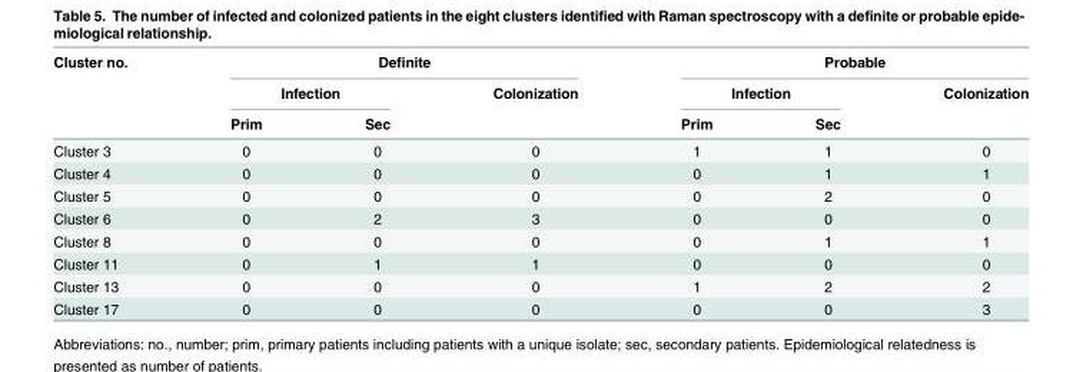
<table><thead><tr><td rowspan="3">Cluster no.</td><td colspan="3">Definite</td><td colspan="3">Probable</td></tr><tr><td colspan="2">Infection</td><td rowspan="2">Colonization</td><td colspan="2">Infection</td><td rowspan="2">Colonization</td></tr><tr><td>Prim</td><td>Sec</td><td>Prim</td><td>Sec</td></tr></thead><tbody><tr><td>Cluster 3</td><td>0</td><td>0</td><td>0</td><td>1</td><td>1</td><td>0</td></tr><tr><td>Cluster 4</td><td>0</td><td>0</td><td>0</td><td>0</td><td>1</td><td>1</td></tr><tr><td>Cluster 5</td><td>0</td><td>0</td><td>0</td><td>0</td><td>2</td><td>0</td></tr><tr><td>Cluster 6</td><td>0</td><td>2</td><td>3</td><td>0</td><td>0</td><td>0</td></tr><tr><td>Cluster 8</td><td>0</td><td>0</td><td>0</td><td>0</td><td>1</td><td>1</td></tr><tr><td>Cluster 11</td><td>0</td><td>1</td><td>1</td><td>0</td><td>0</td><td>0</td></tr><tr><td>Cluster 13</td><td>0</td><td>0</td><td>0</td><td>1</td><td>2</td><td>2</td></tr><tr><td>Cluster 17</td><td>0</td><td>0</td><td>0</td><td>0</td><td>0</td><td>3</td></tr></tbody></table>